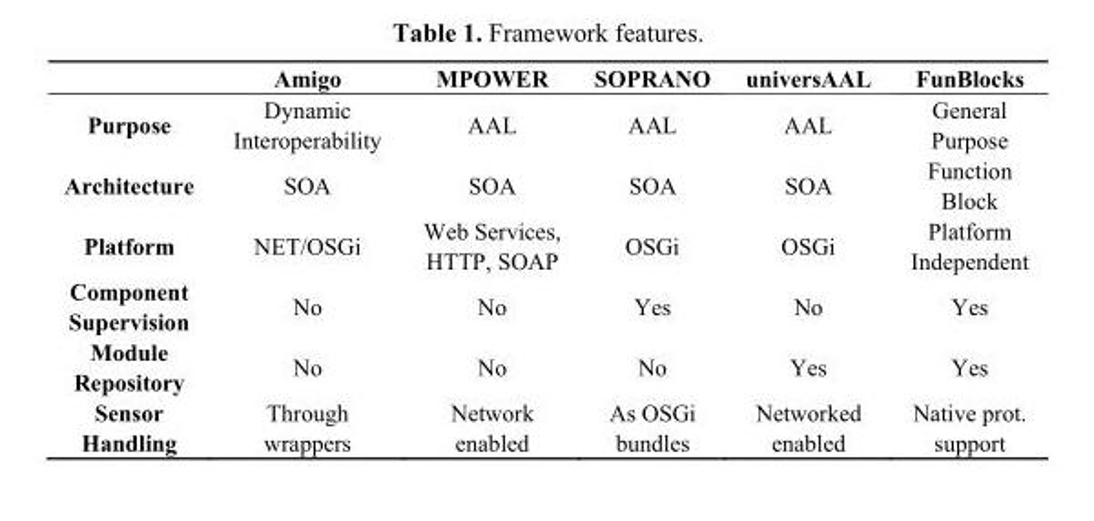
<table><thead><tr><td></td><td>Amigo</td><td>MPOWER</td><td>SOPRANO</td><td>universAAL</td><td>FunBlocks</td></tr></thead><tbody><tr><td>Purpose</td><td>Dynamic Interoperability</td><td>AAL</td><td>AAL</td><td>AAL</td><td>General Purpose</td></tr><tr><td>Architecture</td><td>SOA</td><td>SOA</td><td>SOA</td><td>SOA</td><td>Function Block</td></tr><tr><td>Platform</td><td>NET/OSGi</td><td>Web Services, HTTP, SOAP</td><td>OSGi</td><td>OSGi</td><td>Platform Independent</td></tr><tr><td>Component Supervision</td><td>No</td><td>No</td><td>Yes</td><td>No</td><td>Yes</td></tr><tr><td>Module Repository</td><td>No</td><td>No</td><td>No</td><td>Yes</td><td>Yes</td></tr><tr><td>Sensor Handling</td><td>Through wrappers</td><td>Network enabled</td><td>As OSGi bundles</td><td>Networked enabled</td><td>Native prot. support</td></tr></tbody></table>